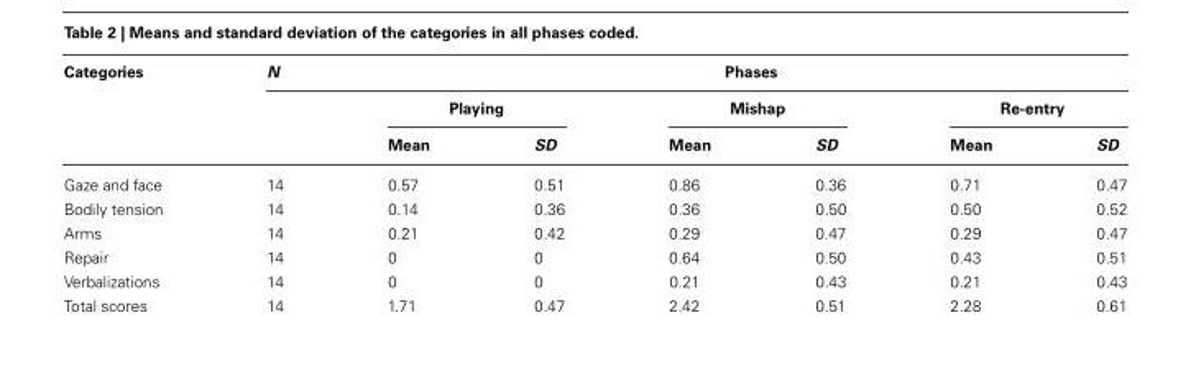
<table><thead><tr><td rowspan="3">Categories</td><td rowspan="3">N</td><td colspan="6">Phases</td></tr><tr><td colspan="2">Playing</td><td colspan="2">Mishap</td><td colspan="2">Re-entry</td></tr><tr><td>Mean</td><td>SD</td><td>Mean</td><td>SD</td><td>Mean</td><td>SD</td></tr></thead><tbody><tr><td>Gaze and face</td><td>14</td><td>0.57</td><td>0.51</td><td>0.86</td><td>0.36</td><td>0.71</td><td>0.47</td></tr><tr><td>Bodily tension</td><td>14</td><td>0.14</td><td>0.36</td><td>0.36</td><td>0.50</td><td>0.50</td><td>0.52</td></tr><tr><td>Arms</td><td>14</td><td>0.21</td><td>0.42</td><td>0.29</td><td>0.47</td><td>0.29</td><td>0.47</td></tr><tr><td>Repair</td><td>14</td><td>0</td><td>0</td><td>0.64</td><td>0.50</td><td>0.43</td><td>0.51</td></tr><tr><td>Verbalizations</td><td>14</td><td>0</td><td>0</td><td>0.21</td><td>0.43</td><td>0.21</td><td>0.43</td></tr><tr><td>Total scores</td><td>14</td><td>1.71</td><td>0.47</td><td>2.42</td><td>0.51</td><td>2.28</td><td>0.61</td></tr></tbody></table>